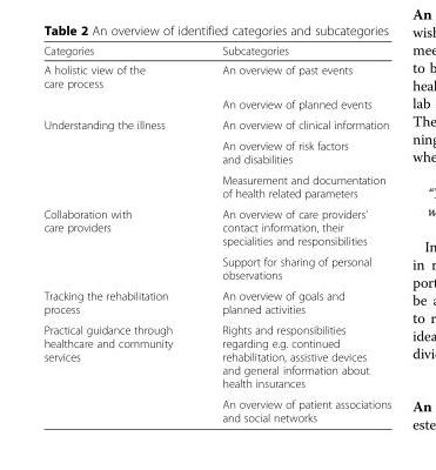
<table><thead><tr><td>Categories</td><td>Subcategories</td></tr></thead><tbody><tr><td rowspan="2">A holistic view of the care process</td><td>An overview of past events</td></tr><tr><td>An overview of planned events</td></tr><tr><td rowspan="3">Understanding the illness</td><td>An overview of clinical information</td></tr><tr><td>An overview of risk factors and disabilities</td></tr><tr><td>Measurement and documentation of health related parameters</td></tr><tr><td rowspan="2">Collaboration with care providers</td><td>An overview of care providers’ contact information, their specialities and responsibilities</td></tr><tr><td>Support for sharing of personal observations</td></tr><tr><td>Tracking the rehabilitation process</td><td>An overview of goals and planned activities</td></tr><tr><td rowspan="2">Practical guidance through healthcare and community services</td><td>Rights and responsibilities regarding e.g. continued rehabilitation, assistive devices and general information about health insurances</td></tr><tr><td>An overview of patient associations and social networks</td></tr></tbody></table>